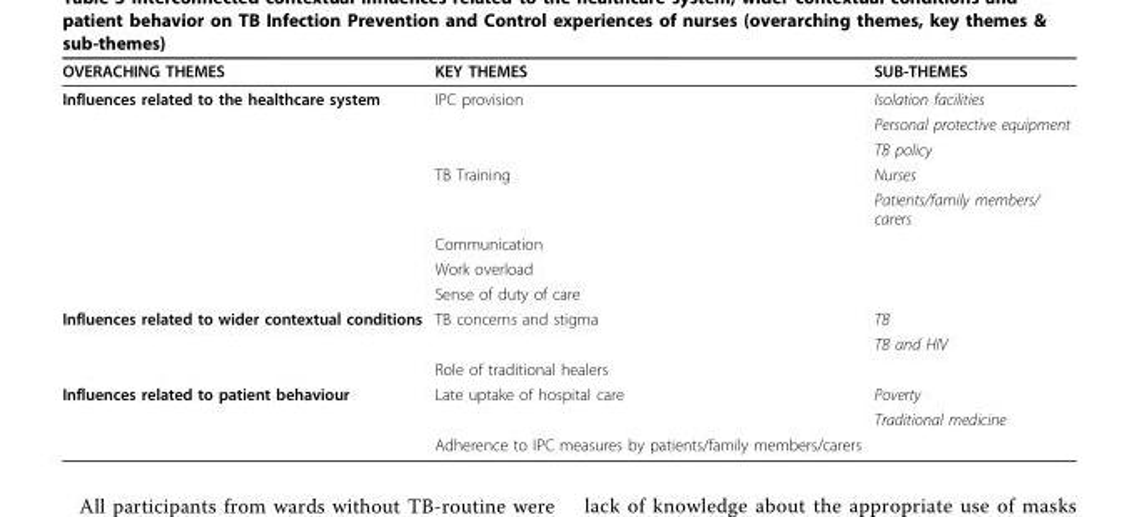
<table><thead><tr><td>OVERACHING THEMES</td><td>KEY THEMES</td><td>SUB-THEMES</td></tr></thead><tbody><tr><td rowspan="8">Influences related to the healthcare system</td><td>IPC provision</td><td>Isolation facilities</td></tr><tr><td></td><td>Personal protective equipment</td></tr><tr><td></td><td>TB policy</td></tr><tr><td>TB Training</td><td>Nurses</td></tr><tr><td></td><td>Patients/family members/ carers</td></tr><tr><td>Communication</td><td></td></tr><tr><td>Work overload</td><td></td></tr><tr><td>Sense of duty of care</td><td></td></tr><tr><td rowspan="3">Influences related to wider contextual conditions</td><td>TB concerns and stigma</td><td>TB</td></tr><tr><td></td><td>TB and HIV</td></tr><tr><td>Role of traditional healers</td><td></td></tr><tr><td rowspan="3">Influences related to patient behaviour</td><td>Late uptake of hospital care</td><td>Poverty</td></tr><tr><td></td><td>Traditional medicine</td></tr><tr><td>Adherence to IPC measures by patients/family members/carers</td><td></td></tr></tbody></table>